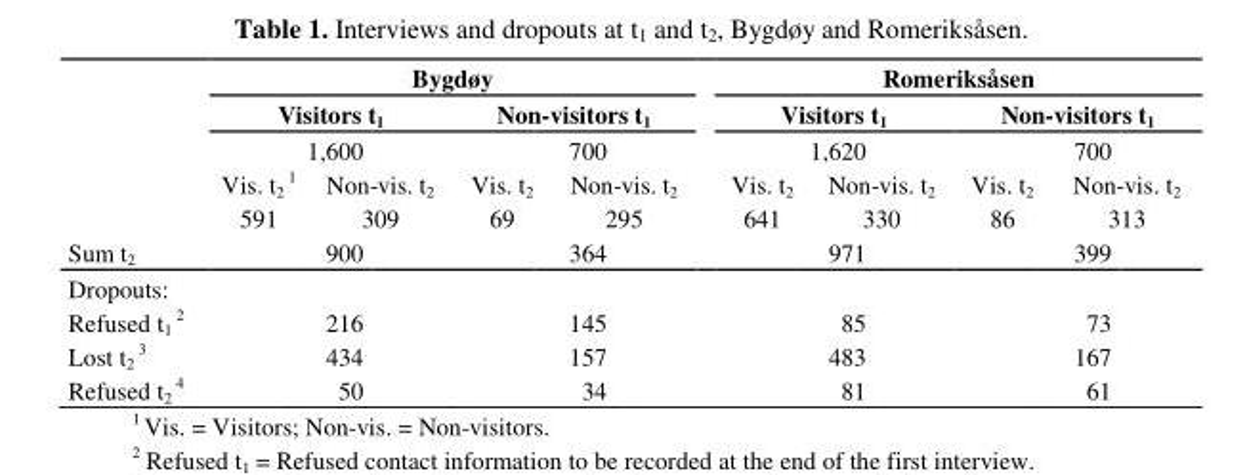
<table><thead><tr><td rowspan="4"></td><td colspan="4">Bygdøy</td><td colspan="4">Romeriksåsen</td></tr><tr><td rowspan="2" colspan="2">Visitors t<sub>1</sub> 1,600</td><td rowspan="2" colspan="2">Non-visitors t<sub>1</sub> 700</td><td rowspan="2" colspan="2">Visitors t<sub>1</sub> 1,620</td><td rowspan="2" colspan="2">Non-visitors t<sub>1</sub> 700</td></tr><tr></tr><tr><td>Vis. t<sub>2</sub> <sup>1</sup></td><td>Non-vis. t<sub>2</sub></td><td>Vis. t<sub>2</sub></td><td>Non-vis. t<sub>2</sub></td><td>Vis. t<sub>2</sub></td><td>Non-vis. t<sub>2</sub></td><td>Vis. t<sub>2</sub></td><td>Non-vis. t<sub>2</sub></td></tr></thead><tbody><tr><td></td><td>591</td><td>309</td><td>69</td><td>295</td><td>641</td><td>330</td><td>86</td><td>313</td></tr><tr><td>Sum t<sub>2</sub></td><td colspan="2">900</td><td colspan="2">364</td><td colspan="2">971</td><td colspan="2">399</td></tr><tr><td colspan="9">Dropouts:</td></tr><tr><td>Refused t<sub>1</sub> <sup>2</sup></td><td colspan="2">216</td><td colspan="2">145</td><td colspan="2">85</td><td colspan="2">73</td></tr><tr><td>Lost t<sub>2</sub> <sup>3</sup></td><td colspan="2">434</td><td colspan="2">157</td><td colspan="2">483</td><td colspan="2">167</td></tr><tr><td>Refused t<sub>2</sub> <sup>4</sup></td><td colspan="2">50</td><td colspan="2">34</td><td colspan="2">81</td><td colspan="2">61</td></tr></tbody></table>